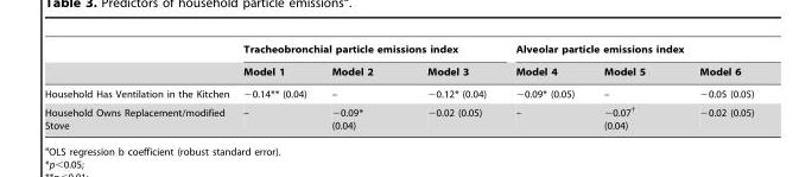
<table><thead><tr><td rowspan="2"></td><td colspan="3">Tracheobronchial particle emissions index</td><td colspan="3">Alveolar particle emissions index</td></tr><tr><td>Model 1</td><td>Model 2</td><td>Model 3</td><td>Model 4</td><td>Model 5</td><td>Model 6</td></tr></thead><tbody><tr><td>Household Has Ventilation in the Kitchen</td><td>−0.14** (0.04)</td><td>–</td><td>−0.12* (0.04)</td><td>−0.09* (0.05)</td><td>–</td><td>−0.05 (0.05)</td></tr><tr><td>Household Owns Replacement/modified Stove</td><td>–</td><td>−0.09* (0.04)</td><td>−0.02 (0.05)</td><td>–</td><td>−0.07† (0.04)</td><td>−0.02 (0.05)</td></tr></tbody></table>